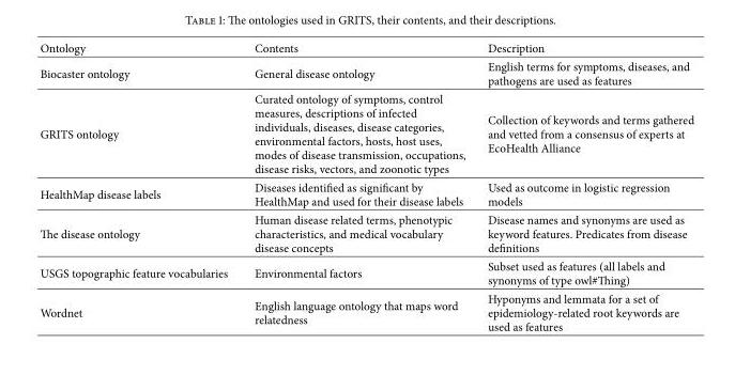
<table><thead><tr><td>Ontology</td><td>Contents</td><td>Description</td></tr></thead><tbody><tr><td>Biocaster ontology</td><td>General disease ontology</td><td>English terms for symptoms, diseases, and pathogens are used as features</td></tr><tr><td>GRITS ontology</td><td>Curated ontology of symptoms, control measures, descriptions of infected individuals, diseases, disease categories, environmental factors, hosts, host uses, modes of disease transmission, occupations, disease risks, vectors, and zoonotic types</td><td>Collection of keywords and terms gathered and vetted from a consensus of experts at EcoHealth Alliance</td></tr><tr><td>HealthMap disease labels</td><td>Diseases identified as significant by HealthMap and used for their disease labels</td><td>Used as outcome in logistic regression models</td></tr><tr><td>The disease ontology</td><td>Human disease related terms, phenotypic characteristics, and medical vocabulary disease concepts</td><td>Disease names and synonyms are used as keyword features. Predicates from disease definitions</td></tr><tr><td>USGS topographic feature vocabularies</td><td>Environmental factors</td><td>Subset used as features (all labels and synonyms of type owl#Thing)</td></tr><tr><td>Wordnet</td><td>English language ontology that maps word relatedness</td><td>Hyponyms and lemmata for a set of epidemiology-related root keywords are used as features</td></tr></tbody></table>